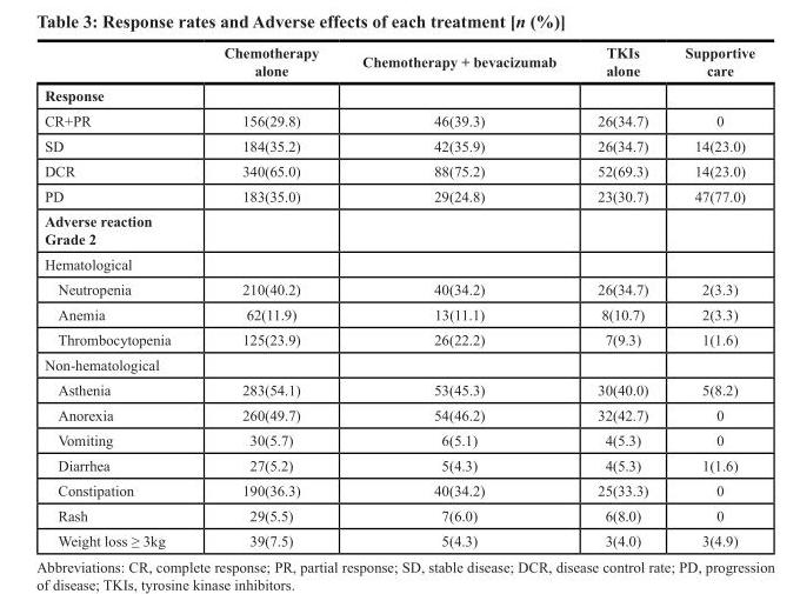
<table><thead><tr><td></td><td>Chemotherapy alone</td><td>Chemotherapy + bevacizumab</td><td>TKIs alone</td><td>Supportive care</td></tr></thead><tbody><tr><td colspan="5">Response</td></tr><tr><td>CR+PR</td><td>156(29.8)</td><td>46(39.3)</td><td>26(34.7)</td><td>0</td></tr><tr><td>SD</td><td>184(35.2)</td><td>42(35.9)</td><td>26(34.7)</td><td>14(23.0)</td></tr><tr><td>DCR</td><td>340(65.0)</td><td>88(75.2)</td><td>52(69.3)</td><td>14(23.0)</td></tr><tr><td>PD</td><td>183(35.0)</td><td>29(24.8)</td><td>23(30.7)</td><td>47(77.0)</td></tr><tr><td colspan="5">Adverse reaction Grade 2</td></tr><tr><td colspan="5">Hematological</td></tr><tr><td>Neutropenia</td><td>210(40.2)</td><td>40(34.2)</td><td>26(34.7)</td><td>2(3.3)</td></tr><tr><td>Anemia</td><td>62(11.9)</td><td>13(11.1)</td><td>8(10.7)</td><td>2(3.3)</td></tr><tr><td>Thrombocytopenia</td><td>125(23.9)</td><td>26(22.2)</td><td>7(9.3)</td><td>1(1.6)</td></tr><tr><td colspan="5">Non-hematological</td></tr><tr><td>Asthenia</td><td>283(54.1)</td><td>53(45.3)</td><td>30(40.0)</td><td>5(8.2)</td></tr><tr><td>Anorexia</td><td>260(49.7)</td><td>54(46.2)</td><td>32(42.7)</td><td>0</td></tr><tr><td>Vomiting</td><td>30(5.7)</td><td>6(5.1)</td><td>4(5.3)</td><td>0</td></tr><tr><td>Diarrhea</td><td>27(5.2)</td><td>5(4.3)</td><td>4(5.3)</td><td>1(1.6)</td></tr><tr><td>Constipation</td><td>190(36.3)</td><td>40(34.2)</td><td>25(33.3)</td><td>0</td></tr><tr><td>Rash</td><td>29(5.5)</td><td>7(6.0)</td><td>6(8.0)</td><td>0</td></tr><tr><td>Weight loss ≥ 3kg</td><td>39(7.5)</td><td>5(4.3)</td><td>3(4.0)</td><td>3(4.9)</td></tr></tbody></table>